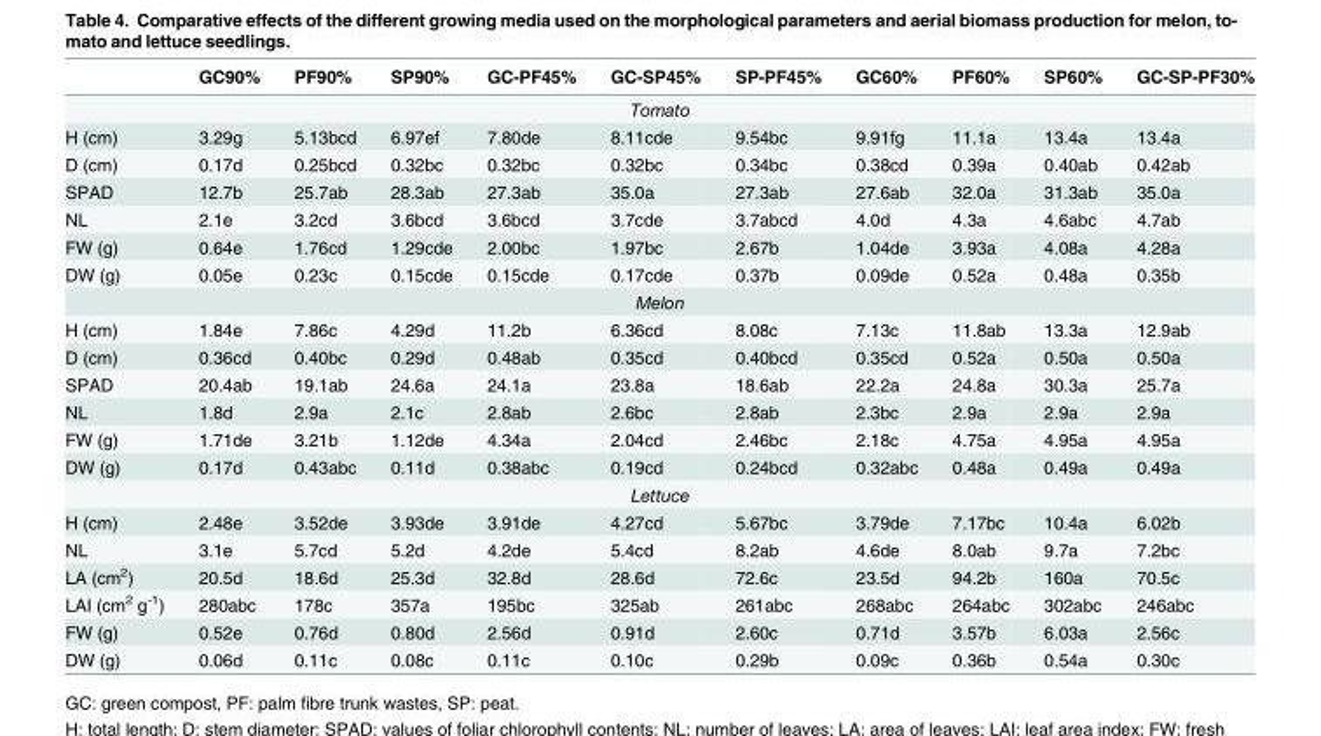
<table><thead><tr><td></td><td>GC90%</td><td>PF90%</td><td>SP90%</td><td>GC-PF45%</td><td>GC-SP45%</td><td>SP-PF45%</td><td>GC60%</td><td>PF60%</td><td>SP60%</td><td>GC-SP-PF30%</td></tr></thead><tbody><tr><td colspan="11">Tomato</td></tr><tr><td>H (cm)</td><td>3.29g</td><td>5.13bcd</td><td>6.97ef</td><td>7.80de</td><td>8.11cde</td><td>9.54bc</td><td>9.91fg</td><td>11.1a</td><td>13.4a</td><td>13.4a</td></tr><tr><td>D (cm)</td><td>0.17d</td><td>0.25bcd</td><td>0.32bc</td><td>0.32bc</td><td>0.32bc</td><td>0.34bc</td><td>0.38cd</td><td>0.39a</td><td>0.40ab</td><td>0.42ab</td></tr><tr><td>SPAD</td><td>12.7b</td><td>25.7ab</td><td>28.3ab</td><td>27.3ab</td><td>35.0a</td><td>27.3ab</td><td>27.6ab</td><td>32.0a</td><td>31.3ab</td><td>35.0a</td></tr><tr><td>NL</td><td>2.1e</td><td>3.2cd</td><td>3.6bcd</td><td>3.6bcd</td><td>3.7cde</td><td>3.7abcd</td><td>4.0d</td><td>4.3a</td><td>4.6abc</td><td>4.7ab</td></tr><tr><td>FW (g)</td><td>0.64e</td><td>1.76cd</td><td>1.29cde</td><td>2.00bc</td><td>1.97bc</td><td>2.67b</td><td>1.04de</td><td>3.93a</td><td>4.08a</td><td>4.28a</td></tr><tr><td>DW (g)</td><td>0.05e</td><td>0.23c</td><td>0.15cde</td><td>0.15cde</td><td>0.17cde</td><td>0.37b</td><td>0.09de</td><td>0.52a</td><td>0.48a</td><td>0.35b</td></tr><tr><td colspan="11">Melon</td></tr><tr><td>H (cm)</td><td>1.84e</td><td>7.86c</td><td>4.29d</td><td>11.2b</td><td>6.36cd</td><td>8.08c</td><td>7.13c</td><td>11.8ab</td><td>13.3a</td><td>12.9ab</td></tr><tr><td>D (cm)</td><td>0.36cd</td><td>0.40bc</td><td>0.29d</td><td>0.48ab</td><td>0.35cd</td><td>0.40bcd</td><td>0.35cd</td><td>0.52a</td><td>0.50a</td><td>0.50a</td></tr><tr><td>SPAD</td><td>20.4ab</td><td>19.1ab</td><td>24.6a</td><td>24.1a</td><td>23.8a</td><td>18.6ab</td><td>22.2a</td><td>24.8a</td><td>30.3a</td><td>25.7a</td></tr><tr><td>NL</td><td>1.8d</td><td>2.9a</td><td>2.1c</td><td>2.8ab</td><td>2.6bc</td><td>2.8ab</td><td>2.3bc</td><td>2.9a</td><td>2.9a</td><td>2.9a</td></tr><tr><td>FW (g)</td><td>1.71de</td><td>3.21b</td><td>1.12de</td><td>4.34a</td><td>2.04cd</td><td>2.46bc</td><td>2.18c</td><td>4.75a</td><td>4.95a</td><td>4.95a</td></tr><tr><td>DW (g)</td><td>0.17d</td><td>0.43abc</td><td>0.11d</td><td>0.38abc</td><td>0.19cd</td><td>0.24bcd</td><td>0.32abc</td><td>0.48a</td><td>0.49a</td><td>0.49a</td></tr><tr><td colspan="11">Lettuce</td></tr><tr><td>H (cm)</td><td>2.48e</td><td>3.52de</td><td>3.93de</td><td>3.91de</td><td>4.27cd</td><td>5.67bc</td><td>3.79de</td><td>7.17bc</td><td>10.4a</td><td>6.02b</td></tr><tr><td>NL</td><td>3.1e</td><td>5.7cd</td><td>5.2d</td><td>4.2de</td><td>5.4cd</td><td>8.2ab</td><td>4.6de</td><td>8.0ab</td><td>9.7a</td><td>7.2bc</td></tr><tr><td>LA (cm<sup>2</sup>)</td><td>20.5d</td><td>18.6d</td><td>25.3d</td><td>32.8d</td><td>28.6d</td><td>72.6c</td><td>23.5d</td><td>94.2b</td><td>160a</td><td>70.5c</td></tr><tr><td>LAI (cm<sup>2</sup> g<sup>-1</sup>)</td><td>280abc</td><td>178c</td><td>357a</td><td>195bc</td><td>325ab</td><td>261abc</td><td>268abc</td><td>264abc</td><td>302abc</td><td>246abc</td></tr><tr><td>FW (g)</td><td>0.52e</td><td>0.76d</td><td>0.80d</td><td>2.56d</td><td>0.91d</td><td>2.60c</td><td>0.71d</td><td>3.57b</td><td>6.03a</td><td>2.56c</td></tr><tr><td>DW (g)</td><td>0.06d</td><td>0.11c</td><td>0.08c</td><td>0.11c</td><td>0.10c</td><td>0.29b</td><td>0.09c</td><td>0.36b</td><td>0.54a</td><td>0.30c</td></tr></tbody></table>